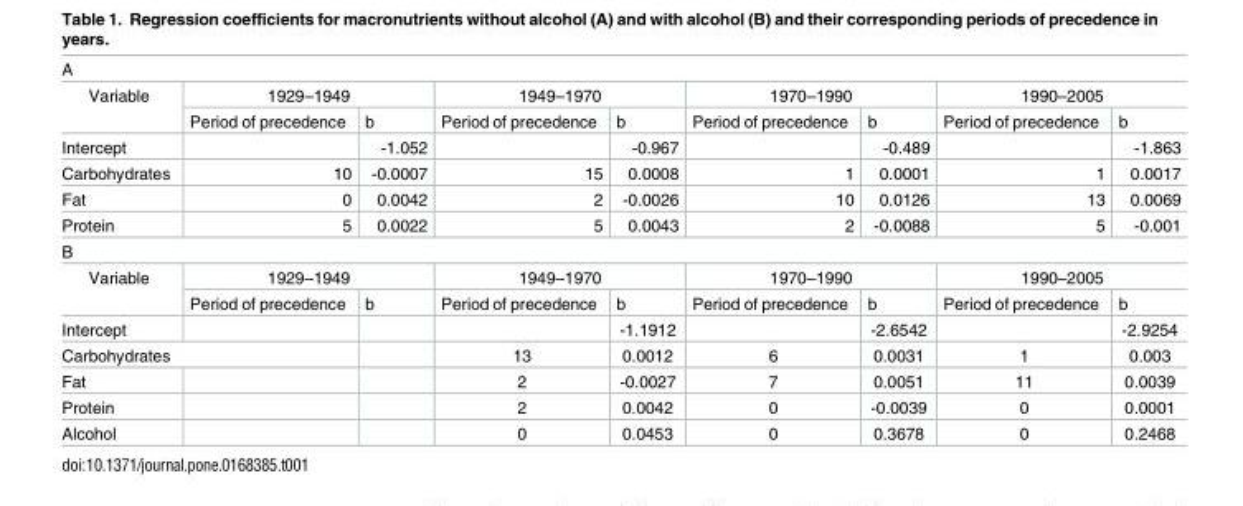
<table><tbody><tr><td colspan="9">A</td></tr><tr><td rowspan="2">Variable</td><td colspan="2">1929–1949</td><td colspan="2">1949–1970</td><td colspan="2">1970–1990</td><td colspan="2">1990–2005</td></tr><tr><td>Period of precedence</td><td>b</td><td>Period of precedence</td><td>b</td><td>Period of precedence</td><td>b</td><td>Period of precedence</td><td>b</td></tr><tr><td>Intercept</td><td></td><td>-1.052</td><td></td><td>-0.967</td><td></td><td>-0.489</td><td></td><td>-1.863</td></tr><tr><td>Carbohydrates</td><td>10</td><td>-0.0007</td><td>15</td><td>0.0008</td><td>1</td><td>0.0001</td><td>1</td><td>0.0017</td></tr><tr><td>Fat</td><td>0</td><td>0.0042</td><td>2</td><td>-0.0026</td><td>10</td><td>0.0126</td><td>13</td><td>0.0069</td></tr><tr><td>Protein</td><td>5</td><td>0.0022</td><td>5</td><td>0.0043</td><td>2</td><td>-0.0088</td><td>5</td><td>-0.001</td></tr><tr><td colspan="9">B</td></tr><tr><td rowspan="2">Variable</td><td colspan="2">1929–1949</td><td colspan="2">1949–1970</td><td colspan="2">1970–1990</td><td colspan="2">1990–2005</td></tr><tr><td>Period of precedence</td><td>b</td><td>Period of precedence</td><td>b</td><td>Period of precedence</td><td>b</td><td>Period of precedence</td><td>b</td></tr><tr><td>Intercept</td><td></td><td></td><td></td><td>-1.1912</td><td></td><td>-2.6542</td><td></td><td>-2.9254</td></tr><tr><td colspan="2">Carbohydrates</td><td></td><td>13</td><td>0.0012</td><td>6</td><td>0.0031</td><td>1</td><td>0.003</td></tr><tr><td>Fat</td><td></td><td></td><td>2</td><td>-0.0027</td><td>7</td><td>0.0051</td><td>11</td><td>0.0039</td></tr><tr><td>Protein</td><td></td><td></td><td>2</td><td>0.0042</td><td>0</td><td>-0.0039</td><td>0</td><td>0.0001</td></tr><tr><td>Alcohol</td><td></td><td></td><td>0</td><td>0.0453</td><td>0</td><td>0.3678</td><td>0</td><td>0.2468</td></tr></tbody></table>